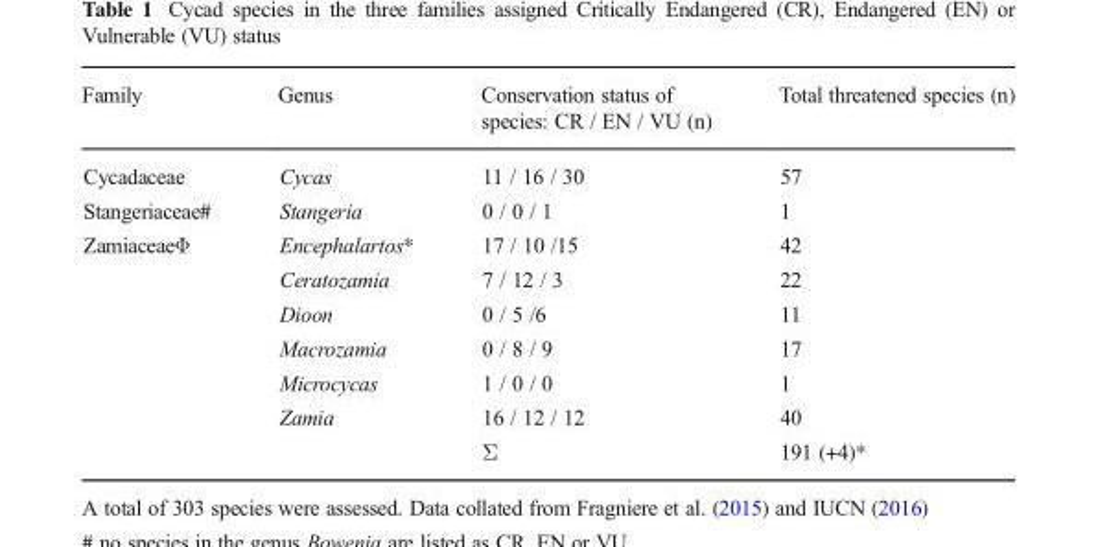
<table><thead><tr><td>Family</td><td>Genus</td><td>Conservation status of species: CR / EN / VU (n)</td><td>Total threatened species (n)</td></tr></thead><tbody><tr><td>Cycadaceae</td><td>Cycas</td><td>11 / 16 / 30</td><td>57</td></tr><tr><td>Stangeriaceae#</td><td>Stangeria</td><td>0 / 0 / 1</td><td>1</td></tr><tr><td rowspan="7">ZamiaceaeΦ</td><td>Encephalartos*</td><td>17 / 10 /15</td><td>42</td></tr><tr><td>Ceratozamia</td><td>7 / 12 / 3</td><td>22</td></tr><tr><td>Dioon</td><td>0 / 5 /6</td><td>11</td></tr><tr><td>Macrozamia</td><td>0 / 8 / 9</td><td>17</td></tr><tr><td>Microcycas</td><td>1 / 0 / 0</td><td>1</td></tr><tr><td>Zamia</td><td>16 / 12 / 12</td><td>40</td></tr><tr><td></td><td>Σ</td><td>191 (+4)*</td></tr></tbody></table>